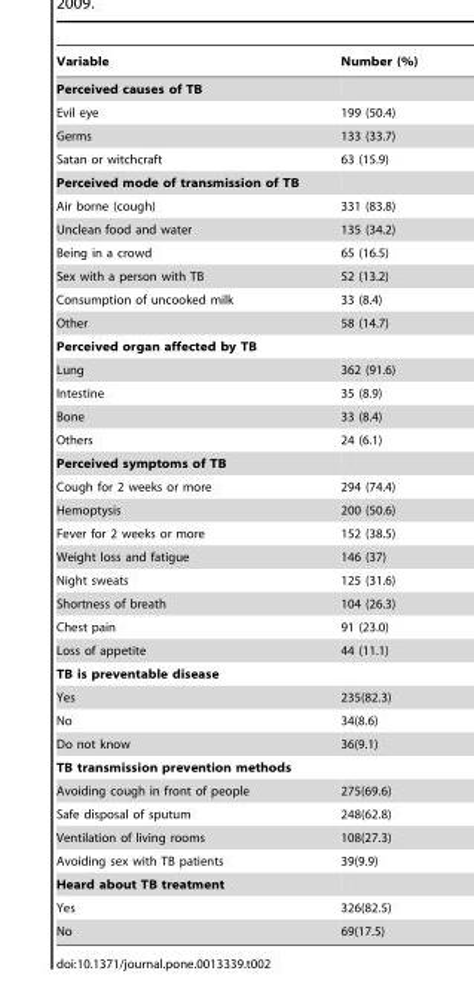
<table><thead><tr><td>Variable</td><td>Number (%)</td></tr></thead><tbody><tr><td colspan="2">Perceived causes of TB</td></tr><tr><td>Evil eye</td><td>199 (50.4)</td></tr><tr><td>Germs</td><td>133 (33.7)</td></tr><tr><td>Satan or witchcraft</td><td>63 (15.9)</td></tr><tr><td colspan="2">Perceived mode of transmission of TB</td></tr><tr><td>Air borne (cough)</td><td>331 (83.8)</td></tr><tr><td>Unclean food and water</td><td>135 (34.2)</td></tr><tr><td>Being in a crowd</td><td>65 (16.5)</td></tr><tr><td>Sex with a person with TB</td><td>52 (13.2)</td></tr><tr><td>Consumption of uncooked milk</td><td>33 (8.4)</td></tr><tr><td>Other</td><td>58 (14.7)</td></tr><tr><td colspan="2">Perceived organ affected by TB</td></tr><tr><td>Lung</td><td>362 (91.6)</td></tr><tr><td>Intestine</td><td>35 (8.9)</td></tr><tr><td>Bone</td><td>33 (8.4)</td></tr><tr><td>Others</td><td>24 (6.1)</td></tr><tr><td colspan="2">Perceived symptoms of TB</td></tr><tr><td>Cough for 2 weeks or more</td><td>294 (74.4)</td></tr><tr><td>Hemoptysis</td><td>200 (50.6)</td></tr><tr><td>Fever for 2 weeks or more</td><td>152 (38.5)</td></tr><tr><td>Weight loss and fatigue</td><td>146 (37)</td></tr><tr><td>Night sweats</td><td>125 (31.6)</td></tr><tr><td>Shortness of breath</td><td>104 (26.3)</td></tr><tr><td>Chest pain</td><td>91 (23.0)</td></tr><tr><td>Loss of appetite</td><td>44 (11.1)</td></tr><tr><td colspan="2">TB is preventable disease</td></tr><tr><td>Yes</td><td>235(82.3)</td></tr><tr><td>No</td><td>34(8.6)</td></tr><tr><td>Do not know</td><td>36(9.1)</td></tr><tr><td colspan="2">TB transmission prevention methods</td></tr><tr><td>Avoiding cough in front of people</td><td>275(69.6)</td></tr><tr><td>Safe disposal of sputum</td><td>248(62.8)</td></tr><tr><td>Ventilation of living rooms</td><td>108(27.3)</td></tr><tr><td>Avoiding sex with TB patients</td><td>39(9.9)</td></tr><tr><td colspan="2">Heard about TB treatment</td></tr><tr><td>Yes</td><td>326(82.5)</td></tr><tr><td>No</td><td>69(17.5)</td></tr></tbody></table>